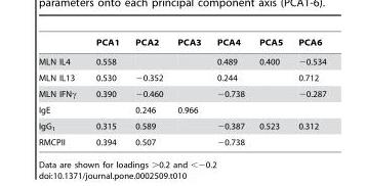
<table><thead><tr><td></td><td>PCA1</td><td>PCA2</td><td>PCA3</td><td>PCA4</td><td>PCA5</td><td>PCA6</td></tr></thead><tbody><tr><td>MLN IL4</td><td>0.558</td><td></td><td></td><td>0.489</td><td>0.400</td><td>−0.534</td></tr><tr><td>MLN IL13</td><td>0.530</td><td>−0.352</td><td></td><td>0.244</td><td></td><td>0.712</td></tr><tr><td>MLN IFNγ</td><td>0.390</td><td>−0.460</td><td></td><td>−0.738</td><td></td><td>−0.287</td></tr><tr><td>IgE</td><td></td><td>0.246</td><td>0.966</td><td></td><td></td><td></td></tr><tr><td>IgG<sub>1</sub></td><td>0.315</td><td>0.589</td><td></td><td>−0.387</td><td>0.523</td><td>0.312</td></tr><tr><td>RMCPII</td><td>0.394</td><td>0.507</td><td></td><td>−0.738</td><td></td><td></td></tr></tbody></table>